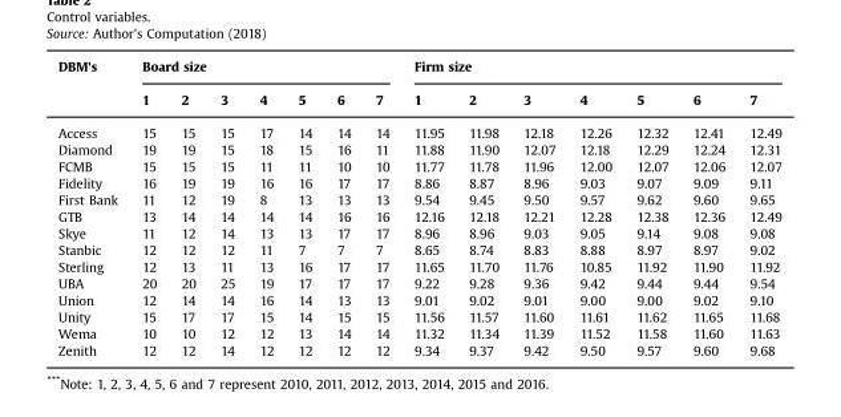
<table><thead><tr><td rowspan="2">DBM&#x27;s</td><td colspan="7">Board size</td><td colspan="7">Firm size</td></tr><tr><td>1</td><td>2</td><td>3</td><td>4</td><td>5</td><td>6</td><td>7</td><td>1</td><td>2</td><td>3</td><td>4</td><td>5</td><td>6</td><td>7</td></tr></thead><tbody><tr><td>Access</td><td>15</td><td>15</td><td>15</td><td>17</td><td>14</td><td>14</td><td>14</td><td>11.95</td><td>11.98</td><td>12.18</td><td>12.26</td><td>12.32</td><td>12.41</td><td>12.49</td></tr><tr><td>Diamond</td><td>19</td><td>19</td><td>15</td><td>18</td><td>15</td><td>16</td><td>11</td><td>11.88</td><td>11.90</td><td>12.07</td><td>12.18</td><td>12.29</td><td>12.24</td><td>12.31</td></tr><tr><td>FCMB</td><td>15</td><td>15</td><td>15</td><td>11</td><td>11</td><td>10</td><td>10</td><td>11.77</td><td>11.78</td><td>11.96</td><td>12.00</td><td>12.07</td><td>12.06</td><td>12.07</td></tr><tr><td>Fidelity</td><td>16</td><td>19</td><td>19</td><td>16</td><td>16</td><td>17</td><td>17</td><td>8.86</td><td>8.87</td><td>8.96</td><td>9.03</td><td>9.07</td><td>9.09</td><td>9.11</td></tr><tr><td>First Bank</td><td>11</td><td>12</td><td>19</td><td>8</td><td>13</td><td>13</td><td>13</td><td>9.54</td><td>9.45</td><td>9.50</td><td>9.57</td><td>9.62</td><td>9.60</td><td>9.65</td></tr><tr><td>GTB</td><td>13</td><td>14</td><td>14</td><td>14</td><td>14</td><td>16</td><td>16</td><td>12.16</td><td>12.18</td><td>12.21</td><td>12.28</td><td>12.38</td><td>12.36</td><td>12.49</td></tr><tr><td>Skye</td><td>11</td><td>12</td><td>14</td><td>13</td><td>13</td><td>17</td><td>17</td><td>8.96</td><td>8.96</td><td>9.03</td><td>9.05</td><td>9.14</td><td>9.08</td><td>9.08</td></tr><tr><td>Stanbic</td><td>12</td><td>12</td><td>12</td><td>11</td><td>7</td><td>7</td><td>7</td><td>8.65</td><td>8.74</td><td>8.83</td><td>8.88</td><td>8.97</td><td>8.97</td><td>9.02</td></tr><tr><td>Sterling</td><td>12</td><td>13</td><td>11</td><td>13</td><td>16</td><td>17</td><td>17</td><td>11.65</td><td>11.70</td><td>11.76</td><td>10.85</td><td>11.92</td><td>11.90</td><td>11.92</td></tr><tr><td>UBA</td><td>20</td><td>20</td><td>25</td><td>19</td><td>17</td><td>17</td><td>17</td><td>9.22</td><td>9.28</td><td>9.36</td><td>9.42</td><td>9.44</td><td>9.44</td><td>9.54</td></tr><tr><td>Union</td><td>12</td><td>14</td><td>14</td><td>16</td><td>14</td><td>13</td><td>13</td><td>9.01</td><td>9.02</td><td>9.01</td><td>9.00</td><td>9.00</td><td>9.02</td><td>9.10</td></tr><tr><td>Unity</td><td>15</td><td>17</td><td>17</td><td>15</td><td>14</td><td>15</td><td>15</td><td>11.56</td><td>11.57</td><td>11.60</td><td>11.61</td><td>11.62</td><td>11.65</td><td>11.68</td></tr><tr><td>Wema</td><td>10</td><td>10</td><td>12</td><td>12</td><td>13</td><td>14</td><td>14</td><td>11.32</td><td>11.34</td><td>11.39</td><td>11.52</td><td>11.58</td><td>11.60</td><td>11.63</td></tr><tr><td>Zenith</td><td>12</td><td>12</td><td>14</td><td>12</td><td>12</td><td>12</td><td>12</td><td>9.34</td><td>9.37</td><td>9.42</td><td>9.50</td><td>9.57</td><td>9.60</td><td>9.68</td></tr></tbody></table>